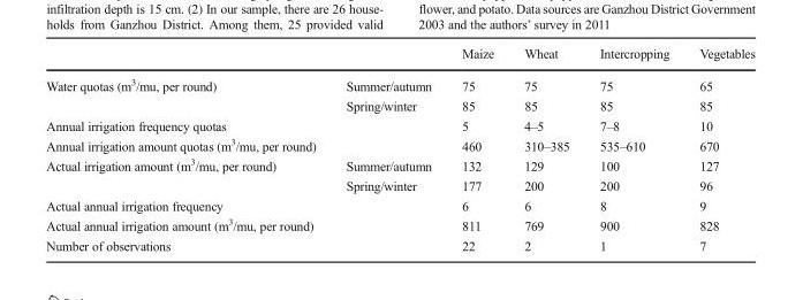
<table><thead><tr><td></td><td></td><td>Maize</td><td>Wheat</td><td>Intercropping</td><td>Vegetables</td></tr></thead><tbody><tr><td rowspan="2">Water quotas (m<sup>3</sup>/mu, per round)</td><td>Summer/autumn</td><td>75</td><td>75</td><td>75</td><td>65</td></tr><tr><td>Spring/winter</td><td>85</td><td>85</td><td>85</td><td>85</td></tr><tr><td>Annual irrigation frequency quotas</td><td></td><td>5</td><td>4–5</td><td>7–8</td><td>10</td></tr><tr><td>Annual irrigation amount quotas (m<sup>3</sup>/mu, per round)</td><td></td><td>460</td><td>310–385</td><td>535–610</td><td>670</td></tr><tr><td rowspan="2">Actual irrigation amount (m<sup>3</sup>/mu, per round)</td><td>Summer/autumn</td><td>132</td><td>129</td><td>100</td><td>127</td></tr><tr><td>Spring/winter</td><td>177</td><td>200</td><td>200</td><td>96</td></tr><tr><td>Actual annual irrigation frequency</td><td></td><td>6</td><td>6</td><td>8</td><td>9</td></tr><tr><td>Actual annual irrigation amount (m<sup>3</sup>/mu, per round)</td><td></td><td>811</td><td>769</td><td>900</td><td>828</td></tr><tr><td>Number of observations</td><td></td><td>22</td><td>2</td><td>1</td><td>7</td></tr></tbody></table>